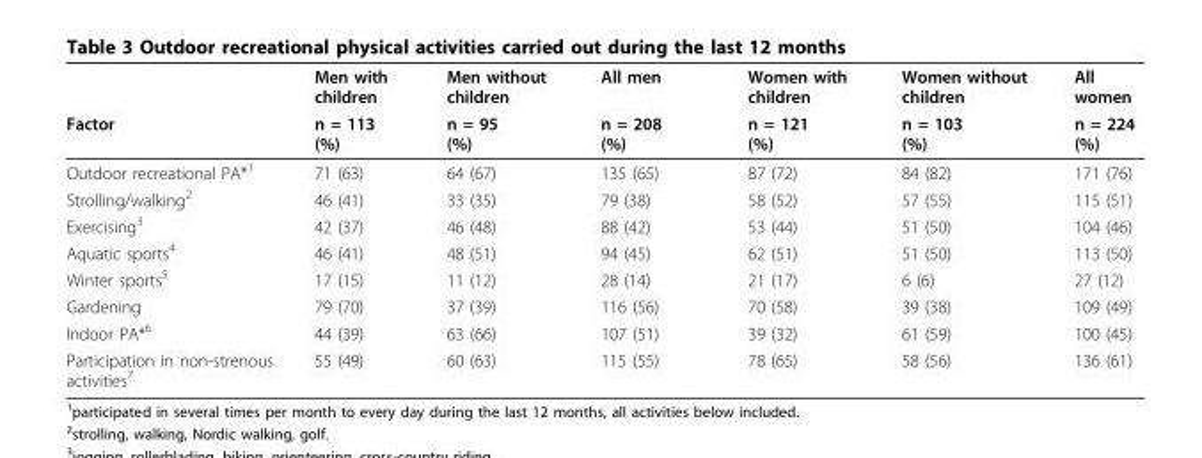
<table><thead><tr><td rowspan="2">Factor</td><td rowspan="2">Men with children n = 113 (%)</td><td rowspan="2">Men without children n = 95 (%)</td><td rowspan="2">All men n = 208 (%)</td><td rowspan="2">Women with children n = 121 (%)</td><td rowspan="2">Women without children n = 103 (%)</td><td rowspan="2">All women n = 224 (%)</td></tr><tr></tr></thead><tbody><tr><td>Outdoor recreational PA*<sup>1</sup></td><td>71 (63)</td><td>64 (67)</td><td>135 (65)</td><td>87 (72)</td><td>84 (82)</td><td>171 (76)</td></tr><tr><td>Strolling/walking<sup>2</sup></td><td>46 (41)</td><td>33 (35)</td><td>79 (38)</td><td>58 (52)</td><td>57 (55)</td><td>115 (51)</td></tr><tr><td>Exercising<sup>3</sup></td><td>42 (37)</td><td>46 (48)</td><td>88 (42)</td><td>53 (44)</td><td>51 (50)</td><td>104 (46)</td></tr><tr><td>Aquatic sports<sup>4</sup></td><td>46 (41)</td><td>48 (51)</td><td>94 (45)</td><td>62 (51)</td><td>51 (50)</td><td>113 (50)</td></tr><tr><td>Winter sports<sup>5</sup></td><td>17 (15)</td><td>11 (12)</td><td>28 (14)</td><td>21 (17)</td><td>6 (6)</td><td>27 (12)</td></tr><tr><td>Gardening</td><td>79 (70)</td><td>37 (39)</td><td>116 (56)</td><td>70 (58)</td><td>39 (38)</td><td>109 (49)</td></tr><tr><td>Indoor PA*<sup>6</sup></td><td>44 (39)</td><td>63 (66)</td><td>107 (51)</td><td>39 (32)</td><td>61 (59)</td><td>100 (45)</td></tr><tr><td>Participation in non-strenous activities<sup>7</sup></td><td>55 (49)</td><td>60 (63)</td><td>115 (55)</td><td>78 (65)</td><td>58 (56)</td><td>136 (61)</td></tr></tbody></table>